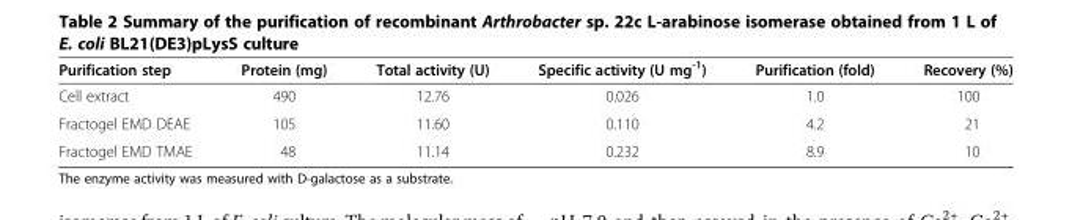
<table><thead><tr><td>Purification step</td><td>Protein (mg)</td><td>Total activity (U)</td><td>Specific activity (U mg<sup>-1</sup>)</td><td>Purification (fold)</td><td>Recovery (%)</td></tr></thead><tbody><tr><td>Cell extract</td><td>490</td><td>12.76</td><td>0.026</td><td>1.0</td><td>100</td></tr><tr><td>Fractogel EMD DEAE</td><td>105</td><td>11.60</td><td>0.110</td><td>4.2</td><td>21</td></tr><tr><td>Fractogel EMD TMAE</td><td>48</td><td>11.14</td><td>0.232</td><td>8.9</td><td>10</td></tr></tbody></table>